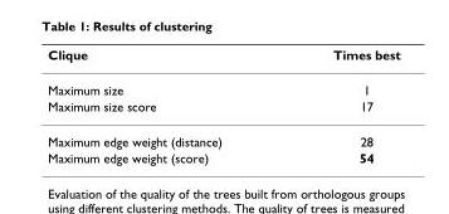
<table><thead><tr><td>Clique</td><td>Times best</td></tr></thead><tbody><tr><td>Maximum size</td><td>1</td></tr><tr><td>Maximum size score</td><td>17</td></tr><tr><td>Maximum edge weight (distance)</td><td>28</td></tr><tr><td>Maximum edge weight (score)</td><td>54</td></tr></tbody></table>